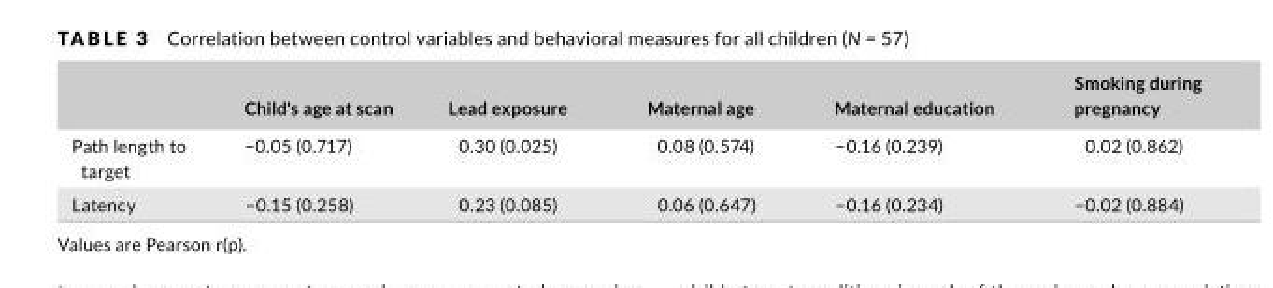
<table><thead><tr><td></td><td>Child&#x27;s age at scan</td><td>Lead exposure</td><td>Maternal age</td><td>Maternal education</td><td>Smoking during pregnancy</td></tr></thead><tbody><tr><td>Path length to target</td><td>−0.05 (0.717)</td><td>0.30 (0.025)</td><td>0.08 (0.574)</td><td>−0.16 (0.239)</td><td>0.02 (0.862)</td></tr><tr><td>Latency</td><td>−0.15 (0.258)</td><td>0.23 (0.085)</td><td>0.06 (0.647)</td><td>−0.16 (0.234)</td><td>−0.02 (0.884)</td></tr></tbody></table>